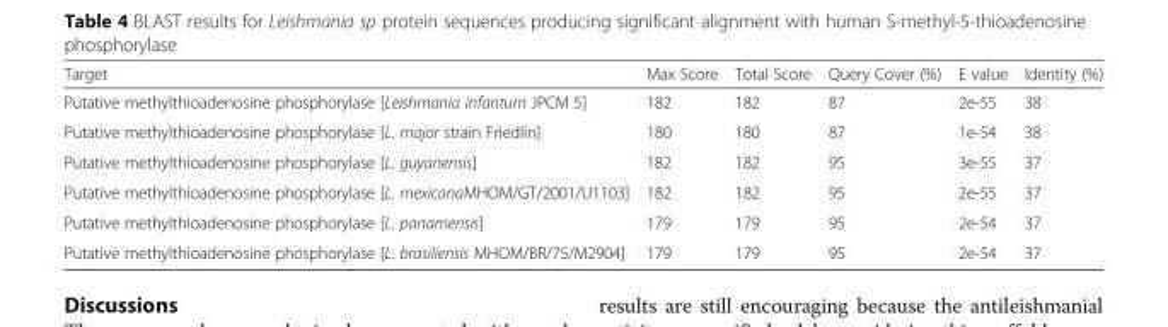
<table><thead><tr><td>Target</td><td>Max Score</td><td>Total Score</td><td>Query Cover (%)</td><td>E value</td><td>Identity (%)</td></tr></thead><tbody><tr><td>Putative methylthioadenosine phosphorylase [Leishmania infantum JPCM 5]</td><td>182</td><td>182</td><td>87</td><td>2e-55</td><td>38</td></tr><tr><td>Putative methylthioadenosine phosphorylase [L. major strain Friedlin]</td><td>180</td><td>180</td><td>87</td><td>1e-54</td><td>38</td></tr><tr><td>Putative methylthioadenosine phosphorylase [L. guyanensis]</td><td>182</td><td>182</td><td>95</td><td>3e-55</td><td>37</td></tr><tr><td>Putative methylthioadenosine phosphorylase [L. mexicanaMHOM/GT/2001/U1103]</td><td>182</td><td>182</td><td>95</td><td>2e-55</td><td>37</td></tr><tr><td>Putative methylthioadenosine phosphorylase [L. panamensis]</td><td>179</td><td>179</td><td>95</td><td>2e-54</td><td>37</td></tr><tr><td>Putative methylthioadenosine phosphorylase [L. brasiliensis MHOM/BR/75/M2904]</td><td>179</td><td>179</td><td>95</td><td>2e-54</td><td>37</td></tr></tbody></table>